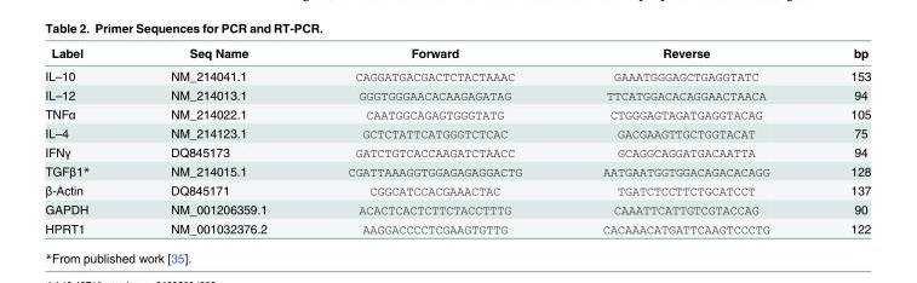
<table><thead><tr><td>Label</td><td>Seq Name</td><td>Forward</td><td>Reverse</td><td>bp</td></tr></thead><tbody><tr><td>IL–10</td><td>NM_214041.1</td><td>CAGGATGACGACTCTACTAAAC</td><td>GAAATGGGAGCTGAGGTATC</td><td>153</td></tr><tr><td>IL–12</td><td>NM_214013.1</td><td>GGGTGGGAACACAAGAGATAG</td><td>TTCATGGACACAGGAACTAACA</td><td>94</td></tr><tr><td>TNFα</td><td>NM_214022.1</td><td>CAATGGCAGAGTGGGTATG</td><td>CTGGGAGTAGATGAGGTACAG</td><td>105</td></tr><tr><td>IL–4</td><td>NM_214123.1</td><td>GCTCTATTCATGGGTCTCAC</td><td>GACGAAGTTGCTGGTACAT</td><td>75</td></tr><tr><td>IFNγ</td><td>DQ845173</td><td>GATCTGTCACCAAGATCTAACC</td><td>GCAGGCAGGATGACAATTA</td><td>94</td></tr><tr><td>TGFβ1*</td><td>NM_214015.1</td><td>CGATTAAAGGTGGAGAGAGGACTG</td><td>AATGAATGGTGGACAGACACAGG</td><td>128</td></tr><tr><td>β-Actin</td><td>DQ845171</td><td>CGGCATCCACGAAACTAC</td><td>TGATCTCCTTCTGCATCCT</td><td>137</td></tr><tr><td>GAPDH</td><td>NM_001206359.1</td><td>ACACTCACTCTTCTACCTTTG</td><td>CAAATTCATTGTCGTACCAG</td><td>90</td></tr><tr><td>HPRT1</td><td>NM_001032376.2</td><td>AAGGACCCCTCGAAGTGTTG</td><td>CACAAACATGATTCAAGTCCCTG</td><td>122</td></tr></tbody></table>